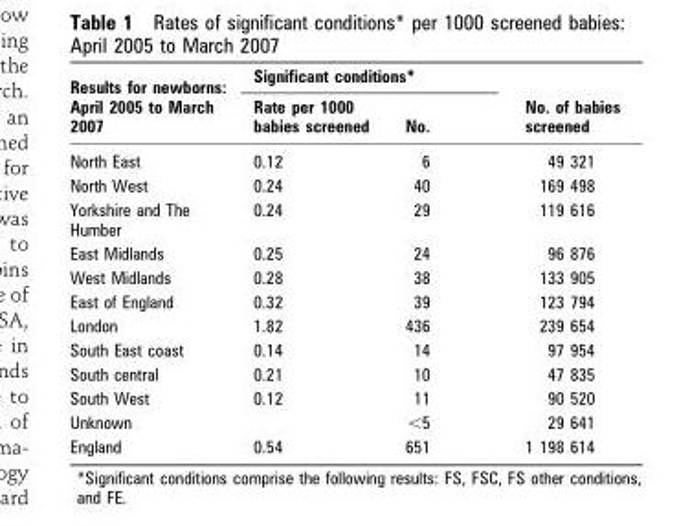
<table><thead><tr><td rowspan="2">Results for newborns: April 2005 to March 2007</td><td colspan="2">Significant conditions*</td><td rowspan="2">No. of babies screened</td></tr><tr><td>Rate per 1000 babies screened</td><td>No.</td></tr></thead><tbody><tr><td>North East</td><td>0.12</td><td>6</td><td>49 321</td></tr><tr><td>North West</td><td>0.24</td><td>40</td><td>169 498</td></tr><tr><td>Yorkshire and The Humber</td><td>0.24</td><td>29</td><td>119 616</td></tr><tr><td>East Midlands</td><td>0.25</td><td>24</td><td>96 876</td></tr><tr><td>West Midlands</td><td>0.28</td><td>38</td><td>133 905</td></tr><tr><td>East of England</td><td>0.32</td><td>39</td><td>123 794</td></tr><tr><td>London</td><td>1.82</td><td>436</td><td>239 654</td></tr><tr><td>South East coast</td><td>0.14</td><td>14</td><td>97 954</td></tr><tr><td>South central</td><td>0.21</td><td>10</td><td>47 835</td></tr><tr><td>South West</td><td>0.12</td><td>11</td><td>90 520</td></tr><tr><td>Unknown</td><td></td><td>&lt;5</td><td>29 641</td></tr><tr><td>England</td><td>0.54</td><td>651</td><td>1 198 614</td></tr></tbody></table>